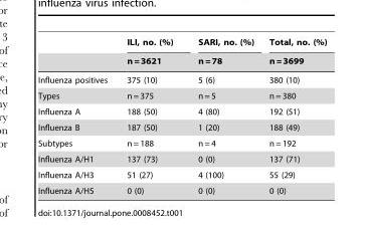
<table><thead><tr><td rowspan="2"></td><td rowspan="2">ILI, no. (%) n = 3621</td><td rowspan="2">SARI, no. (%) n = 78</td><td rowspan="2">Total, no. (%) n = 3699</td></tr><tr></tr></thead><tbody><tr><td>Influenza positives</td><td>375 (10)</td><td>5 (6)</td><td>380 (10)</td></tr><tr><td>Types</td><td>n = 375</td><td>n = 5</td><td>n = 380</td></tr><tr><td>Influenza A</td><td>188 (50)</td><td>4 (80)</td><td>192 (51)</td></tr><tr><td>Influenza B</td><td>187 (50)</td><td>1 (20)</td><td>188 (49)</td></tr><tr><td>Subtypes</td><td>n = 188</td><td>n = 4</td><td>n = 192</td></tr><tr><td>Influenza A/H1</td><td>137 (73)</td><td>0 (0)</td><td>137 (71)</td></tr><tr><td>Influenza A/H3</td><td>51 (27)</td><td>4 (100)</td><td>55 (29)</td></tr><tr><td>Influenza A/H5</td><td>0 (0)</td><td>0 (0)</td><td>0 (0)</td></tr></tbody></table>